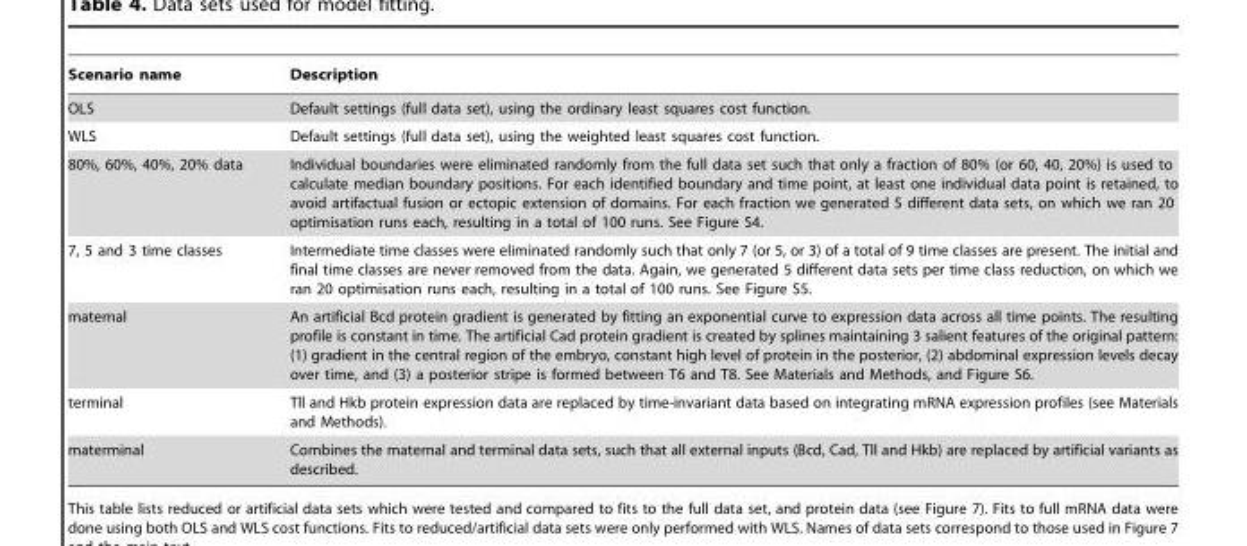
<table><thead><tr><td>Scenario name</td><td>Description</td></tr></thead><tbody><tr><td>OLS</td><td>Default settings (full data set), using the ordinary least squares cost function.</td></tr><tr><td>WLS</td><td>Default settings (full data set), using the weighted least squares cost function.</td></tr><tr><td>80%, 60%, 40%, 20% data</td><td>Individual boundaries were eliminated randomly from the full data set such that only a fraction of 80% (or 60, 40, 20%) is used to calculate median boundary positions. For each identified boundary and time point, at least one individual data point is retained, to avoid artifactual fusion or ectopic extension of domains. For each fraction we generated 5 different data sets, on which we ran 20 optimisation runs each, resulting in a total of 100 runs. See Figure S4.</td></tr><tr><td>7, 5 and 3 time classes</td><td>Intermediate time classes were eliminated randomly such that only 7 (or 5, or 3) of a total of 9 time classes are present. The initial and final time classes are never removed from the data. Again, we generated 5 different data sets per time class reduction, on which we ran 20 optimisation runs each, resulting in a total of 100 runs. See Figure S5.</td></tr><tr><td>maternal</td><td>An artificial Bcd protein gradient is generated by fitting an exponential curve to expression data across all time points. The resulting profile is constant in time. The artificial Cad protein gradient is created by splines maintaining 3 salient features of the original pattern: (1) gradient in the central region of the embryo, constant high level of protein in the posterior, (2) abdominal expression levels decay over time, and (3) a posterior stripe is formed between T6 and T8. See Materials and Methods, and Figure S6.</td></tr><tr><td>terminal</td><td>Tll and Hkb protein expression data are replaced by time-invariant data based on integrating mRNA expression profiles (see Materials and Methods).</td></tr><tr><td>materminal</td><td>Combines the maternal and terminal data sets, such that all external inputs (Bcd, Cad, Tll and Hkb) are replaced by artificial variants as described.</td></tr></tbody></table>